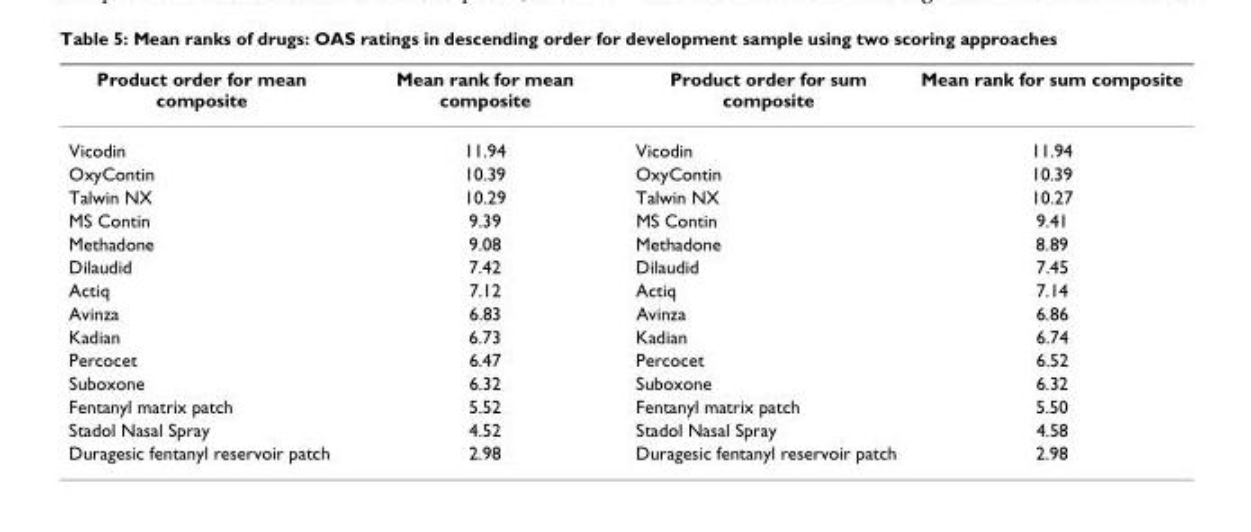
<table><thead><tr><td>Product order for mean composite</td><td>Mean rank for mean composite</td><td>Product order for sum composite</td><td>Mean rank for sum composite</td></tr></thead><tbody><tr><td>Vicodin</td><td>11.94</td><td>Vicodin</td><td>11.94</td></tr><tr><td>OxyContin</td><td>10.39</td><td>OxyContin</td><td>10.39</td></tr><tr><td>Talwin NX</td><td>10.29</td><td>Talwin NX</td><td>10.27</td></tr><tr><td>MS Contin</td><td>9.39</td><td>MS Contin</td><td>9.41</td></tr><tr><td>Methadone</td><td>9.08</td><td>Methadone</td><td>8.89</td></tr><tr><td>Dilaudid</td><td>7.42</td><td>Dilaudid</td><td>7.45</td></tr><tr><td>Actiq</td><td>7.12</td><td>Actiq</td><td>7.14</td></tr><tr><td>Avinza</td><td>6.83</td><td>Avinza</td><td>6.86</td></tr><tr><td>Kadian</td><td>6.73</td><td>Kadian</td><td>6.74</td></tr><tr><td>Percocet</td><td>6.47</td><td>Percocet</td><td>6.52</td></tr><tr><td>Suboxone</td><td>6.32</td><td>Suboxone</td><td>6.32</td></tr><tr><td>Fentanyl matrix patch</td><td>5.52</td><td>Fentanyl matrix patch</td><td>5.50</td></tr><tr><td>Stadol Nasal Spray</td><td>4.52</td><td>Stadol Nasal Spray</td><td>4.58</td></tr><tr><td>Duragesic fentanyl reservoir patch</td><td>2.98</td><td>Duragesic fentanyl reservoir patch</td><td>2.98</td></tr></tbody></table>